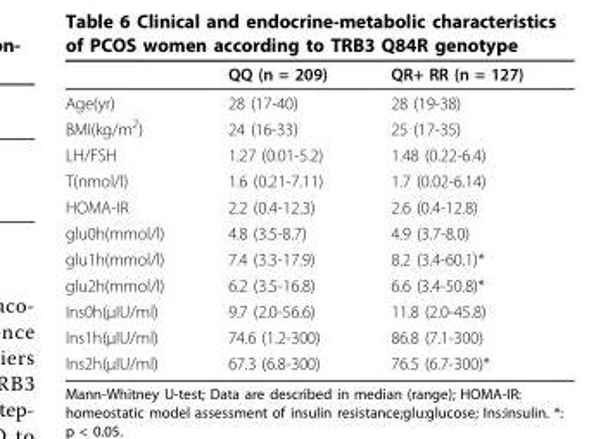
<table><thead><tr><td></td><td>QQ (n = 209)</td><td>QR+ RR (n = 127)</td></tr></thead><tbody><tr><td>Age(yr)</td><td>28 (17-40)</td><td>28 (19-38)</td></tr><tr><td>BMI(kg/m<sup>2</sup>)</td><td>24 (16-33)</td><td>25 (17-35)</td></tr><tr><td>LH/FSH</td><td>1.27 (0.01-5.2)</td><td>1.48 (0.22-6.4)</td></tr><tr><td>T(nmol/l)</td><td>1.6 (0.21-7.11)</td><td>1.7 (0.02-6.14)</td></tr><tr><td>HOMA-IR</td><td>2.2 (0.4-12.3)</td><td>2.6 (0.4-12.8)</td></tr><tr><td>glu0h(mmol/l)</td><td>4.8 (3.5-8.7)</td><td>4.9 (3.7-8.0)</td></tr><tr><td>glu1h(mmol/l)</td><td>7.4 (3.3-17.9)</td><td>8.2 (3.4-60.1)*</td></tr><tr><td>glu2h(mmol/l)</td><td>6.2 (3.5-16.8)</td><td>6.6 (3.4-50.8)*</td></tr><tr><td>Ins0h(μIU/ml)</td><td>9.7 (2.0-56.6)</td><td>11.8 (2.0-45.8)</td></tr><tr><td>Ins1h(μIU/ml)</td><td>74.6 (1.2-300)</td><td>86.8 (7.1-300)</td></tr><tr><td>Ins2h(μIU/ml)</td><td>67.3 (6.8-300)</td><td>76.5 (6.7-300)*</td></tr></tbody></table>